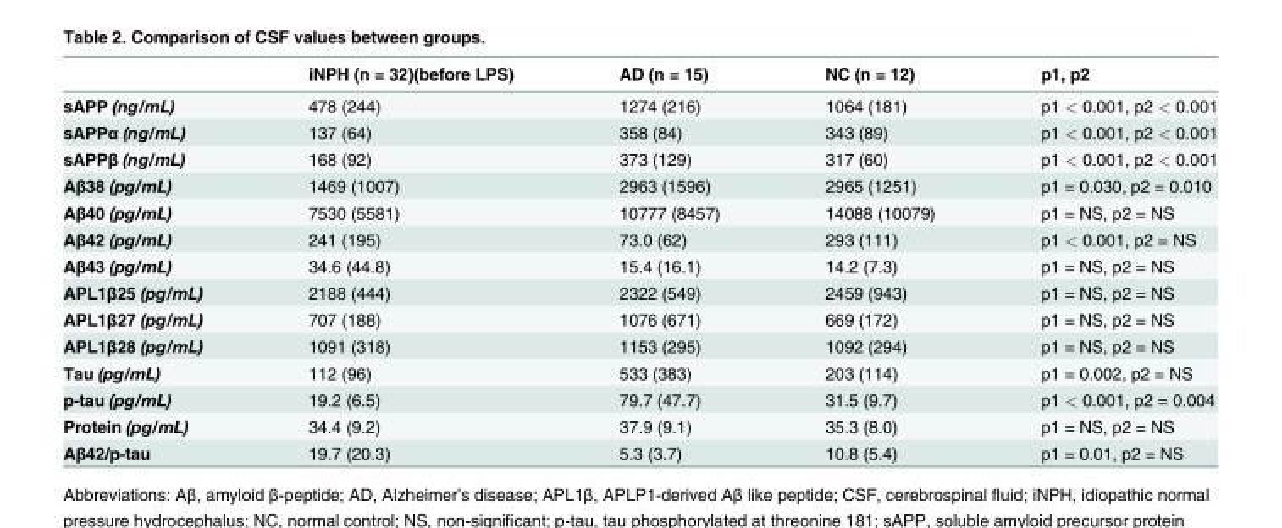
<table><thead><tr><td></td><td>iNPH (n = 32)(before LPS)</td><td>AD (n = 15)</td><td>NC (n = 12)</td><td>p1, p2</td></tr></thead><tbody><tr><td>sAPP (ng/mL)</td><td>478 (244)</td><td>1274 (216)</td><td>1064 (181)</td><td>p1 &lt; 0.001, p2 &lt; 0.001</td></tr><tr><td>sAPPα (ng/mL)</td><td>137 (64)</td><td>358 (84)</td><td>343 (89)</td><td>p1 &lt; 0.001, p2 &lt; 0.001</td></tr><tr><td>sAPPβ (ng/mL)</td><td>168 (92)</td><td>373 (129)</td><td>317 (60)</td><td>p1 &lt; 0.001, p2 &lt; 0.001</td></tr><tr><td>Aβ38 (pg/mL)</td><td>1469 (1007)</td><td>2963 (1596)</td><td>2965 (1251)</td><td>p1 = 0.030, p2 = 0.010</td></tr><tr><td>Aβ40 (pg/mL)</td><td>7530 (5581)</td><td>10777 (8457)</td><td>14088 (10079)</td><td>p1 = NS, p2 = NS</td></tr><tr><td>Aβ42 (pg/mL)</td><td>241 (195)</td><td>73.0 (62)</td><td>293 (111)</td><td>p1 &lt; 0.001, p2 = NS</td></tr><tr><td>Aβ43 (pg/mL)</td><td>34.6 (44.8)</td><td>15.4 (16.1)</td><td>14.2 (7.3)</td><td>p1 = NS, p2 = NS</td></tr><tr><td>APL1β25 (pg/mL)</td><td>2188 (444)</td><td>2322 (549)</td><td>2459 (943)</td><td>p1 = NS, p2 = NS</td></tr><tr><td>APL1β27 (pg/mL)</td><td>707 (188)</td><td>1076 (671)</td><td>669 (172)</td><td>p1 = NS, p2 = NS</td></tr><tr><td>APL1β28 (pg/mL)</td><td>1091 (318)</td><td>1153 (295)</td><td>1092 (294)</td><td>p1 = NS, p2 = NS</td></tr><tr><td>Tau (pg/mL)</td><td>112 (96)</td><td>533 (383)</td><td>203 (114)</td><td>p1 = 0.002, p2 = NS</td></tr><tr><td>p-tau (pg/mL)</td><td>19.2 (6.5)</td><td>79.7 (47.7)</td><td>31.5 (9.7)</td><td>p1 &lt; 0.001, p2 = 0.004</td></tr><tr><td>Protein (pg/mL)</td><td>34.4 (9.2)</td><td>37.9 (9.1)</td><td>35.3 (8.0)</td><td>p1 = NS, p2 = NS</td></tr><tr><td>Aβ42/p-tau</td><td>19.7 (20.3)</td><td>5.3 (3.7)</td><td>10.8 (5.4)</td><td>p1 = 0.01, p2 = NS</td></tr></tbody></table>